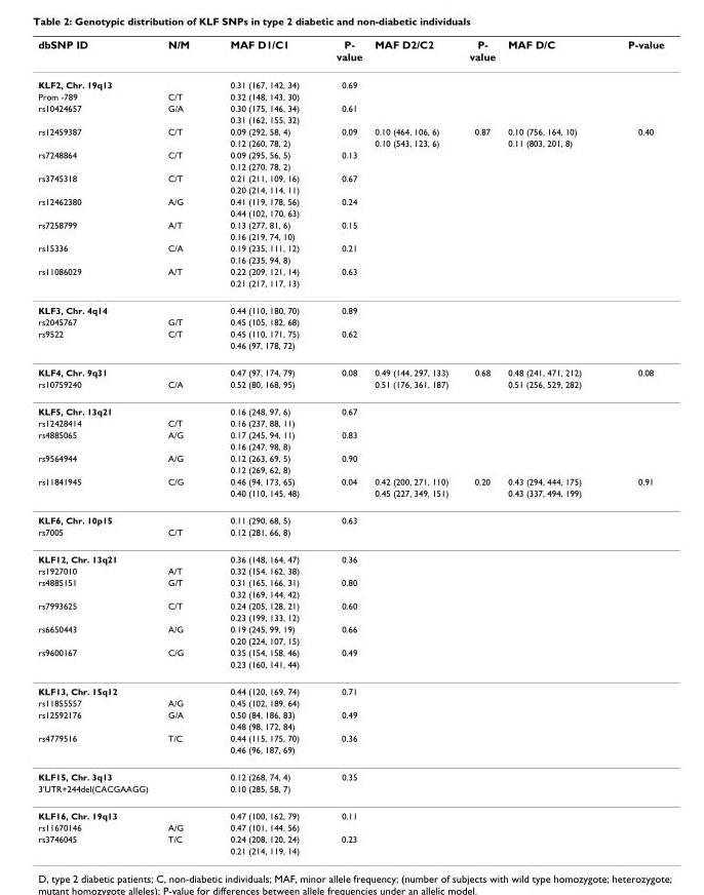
<table><thead><tr><td>dbSNP ID</td><td>N/M</td><td>MAF D1/C1</td><td>P- value</td><td>MAF D2/C2</td><td>P- value</td><td>MAF D/C</td><td>P-value</td></tr></thead><tbody><tr><td colspan="2">KLF2, Chr. 19q13</td><td>0.31 (167, 142, 34)</td><td>0.69</td><td></td><td></td><td></td><td></td></tr><tr><td>Prom -789</td><td>C/T</td><td>0.32 (148, 143, 30)</td><td></td><td></td><td></td><td></td><td></td></tr><tr><td rowspan="2">rs10424657</td><td>G/A</td><td>0.30 (175, 146, 34)</td><td>0.61</td><td></td><td></td><td></td><td></td></tr><tr><td></td><td>0.31 (162, 155, 32)</td><td></td><td></td><td></td><td></td><td></td></tr><tr><td rowspan="2">rs12459387</td><td>C/T</td><td>0.09 (292, 58, 4)</td><td>0.09</td><td>0.10 (464, 106, 6)</td><td>0.87</td><td>0.10 (756, 164, 10)</td><td>0.40</td></tr><tr><td></td><td>0.12 (260, 78, 2)</td><td></td><td>0.10 (543, 123, 6)</td><td></td><td>0.11 (803, 201, 8)</td><td></td></tr><tr><td rowspan="2">rs7248864</td><td>C/T</td><td>0.09 (295, 56, 5)</td><td>0.13</td><td></td><td></td><td></td><td></td></tr><tr><td></td><td>0.12 (270, 78, 2)</td><td></td><td></td><td></td><td></td><td></td></tr><tr><td rowspan="2">rs3745318</td><td>C/T</td><td>0.21 (211, 109, 16)</td><td>0.67</td><td></td><td></td><td></td><td></td></tr><tr><td></td><td>0.20 (214, 114, 11)</td><td></td><td></td><td></td><td></td><td></td></tr><tr><td rowspan="2">rs12462380</td><td>A/G</td><td>0.41 (119, 178, 56)</td><td>0.24</td><td></td><td></td><td></td><td></td></tr><tr><td></td><td>0.44 (102, 170, 63)</td><td></td><td></td><td></td><td></td><td></td></tr><tr><td rowspan="2">rs7258799</td><td>A/T</td><td>0.13 (277, 81, 6)</td><td>0.15</td><td></td><td></td><td></td><td></td></tr><tr><td></td><td>0.16 (219, 74, 10)</td><td></td><td></td><td></td><td></td><td></td></tr><tr><td rowspan="2">rs15336</td><td>C/A</td><td>0.19 (235, 111, 12)</td><td>0.21</td><td></td><td></td><td></td><td></td></tr><tr><td></td><td>0.16 (235, 94, 8)</td><td></td><td></td><td></td><td></td><td></td></tr><tr><td rowspan="2">rs11086029</td><td>A/T</td><td>0.22 (209, 121, 14)</td><td>0.63</td><td></td><td></td><td></td><td></td></tr><tr><td></td><td>0.21 (217, 117, 13)</td><td></td><td></td><td></td><td></td><td></td></tr><tr><td colspan="2">KLF3, Chr. 4q14</td><td>0.44 (110, 180, 70)</td><td>0.89</td><td></td><td></td><td></td><td></td></tr><tr><td>rs2045767</td><td>G/T</td><td>0.45 (105, 182, 68)</td><td></td><td></td><td></td><td></td><td></td></tr><tr><td rowspan="2">rs9522</td><td>C/T</td><td>0.45 (110, 171, 75)</td><td>0.62</td><td></td><td></td><td></td><td></td></tr><tr><td></td><td>0.46 (97, 178, 72)</td><td></td><td></td><td></td><td></td><td></td></tr><tr><td colspan="2">KLF4, Chr. 9q31</td><td>0.47 (97, 174, 79)</td><td>0.08</td><td>0.49 (144, 297, 133)</td><td>0.68</td><td>0.48 (241, 471, 212)</td><td>0.08</td></tr><tr><td>rs10759240</td><td>C/A</td><td>0.52 (80, 168, 95)</td><td></td><td>0.51 (176, 361, 187)</td><td></td><td>0.51 (256, 529, 282)</td><td></td></tr><tr><td colspan="2">KLF5, Chr. 13q21</td><td>0.16 (248, 97, 6)</td><td>0.67</td><td></td><td></td><td></td><td></td></tr><tr><td>rs12428414</td><td>C/T</td><td>0.16 (237, 88, 11)</td><td></td><td></td><td></td><td></td><td></td></tr><tr><td rowspan="2">rs4885065</td><td>A/G</td><td>0.17 (245, 94, 11)</td><td>0.83</td><td></td><td></td><td></td><td></td></tr><tr><td></td><td>0.16 (247, 98, 8)</td><td></td><td></td><td></td><td></td><td></td></tr><tr><td rowspan="2">rs9564944</td><td>A/G</td><td>0.12 (263, 69, 5)</td><td>0.90</td><td></td><td></td><td></td><td></td></tr><tr><td></td><td>0.12 (269, 62, 8)</td><td></td><td></td><td></td><td></td><td></td></tr><tr><td rowspan="2">rs11841945</td><td>C/G</td><td>0.46 (94, 173, 65)</td><td>0.04</td><td>0.42 (200, 271, 110)</td><td>0.20</td><td>0.43 (294, 444, 175)</td><td>0.91</td></tr><tr><td></td><td>0.40 (110, 145, 48)</td><td></td><td>0.45 (227, 349, 151)</td><td></td><td>0.43 (337, 494, 199)</td><td></td></tr><tr><td colspan="2">KLF6, Chr. 10p15</td><td>0.11 (290, 68, 5)</td><td>0.63</td><td></td><td></td><td></td><td></td></tr><tr><td>rs7005</td><td>C/T</td><td>0.12 (281, 66, 8)</td><td></td><td></td><td></td><td></td><td></td></tr><tr><td colspan="2">KLF12, Chr. 13q21</td><td>0.36 (148, 164, 47)</td><td>0.36</td><td></td><td></td><td></td><td></td></tr><tr><td>rs1927010</td><td>A/T</td><td>0.32 (154, 162, 38)</td><td></td><td></td><td></td><td></td><td></td></tr><tr><td rowspan="2">rs4885151</td><td>G/T</td><td>0.31 (165, 166, 31)</td><td>0.80</td><td></td><td></td><td></td><td></td></tr><tr><td></td><td>0.32 (169, 144, 42)</td><td></td><td></td><td></td><td></td><td></td></tr><tr><td rowspan="2">rs7993625</td><td>C/T</td><td>0.24 (205, 128, 21)</td><td>0.60</td><td></td><td></td><td></td><td></td></tr><tr><td></td><td>0.23 (199, 133, 12)</td><td></td><td></td><td></td><td></td><td></td></tr><tr><td rowspan="2">rs6650443</td><td>A/G</td><td>0.19 (245, 99, 19)</td><td>0.66</td><td></td><td></td><td></td><td></td></tr><tr><td></td><td>0.20 (224, 107, 15)</td><td></td><td></td><td></td><td></td><td></td></tr><tr><td rowspan="2">rs9600167</td><td>C/G</td><td>0.35 (154, 158, 46)</td><td>0.49</td><td></td><td></td><td></td><td></td></tr><tr><td></td><td>0.23 (160, 141, 44)</td><td></td><td></td><td></td><td></td><td></td></tr><tr><td colspan="2">KLF13, Chr. 15q12</td><td>0.44 (120, 169, 74)</td><td>0.71</td><td></td><td></td><td></td><td></td></tr><tr><td>rs11855557</td><td>A/G</td><td>0.45 (102, 189, 64)</td><td></td><td></td><td></td><td></td><td></td></tr><tr><td rowspan="2">rs12592176</td><td>G/A</td><td>0.50 (84, 186, 83)</td><td>0.49</td><td></td><td></td><td></td><td></td></tr><tr><td></td><td>0.48 (98, 172, 84)</td><td></td><td></td><td></td><td></td><td></td></tr><tr><td rowspan="2">rs4779516</td><td>T/C</td><td>0.44 (115, 175, 70)</td><td>0.36</td><td></td><td></td><td></td><td></td></tr><tr><td></td><td>0.46 (96, 187, 69)</td><td></td><td></td><td></td><td></td><td></td></tr><tr><td colspan="2">KLF15, Chr. 3q13</td><td>0.12 (268, 74, 4)</td><td>0.35</td><td></td><td></td><td></td><td></td></tr><tr><td colspan="2">3&#x27;UTR+244del(CACGAAGG)</td><td>0.10 (285, 58, 7)</td><td></td><td></td><td></td><td></td><td></td></tr><tr><td colspan="2">KLF16, Chr. 19q13</td><td>0.47 (100, 162, 79)</td><td>0.11</td><td></td><td></td><td></td><td></td></tr><tr><td>rs11670146</td><td>A/G</td><td>0.47 (101, 144, 56)</td><td></td><td></td><td></td><td></td><td></td></tr><tr><td rowspan="2">rs3746045</td><td>T/C</td><td>0.24 (208, 120, 24)</td><td>0.23</td><td></td><td></td><td></td><td></td></tr><tr><td></td><td>0.21 (214, 119, 14)</td><td></td><td></td><td></td><td></td><td></td></tr></tbody></table>